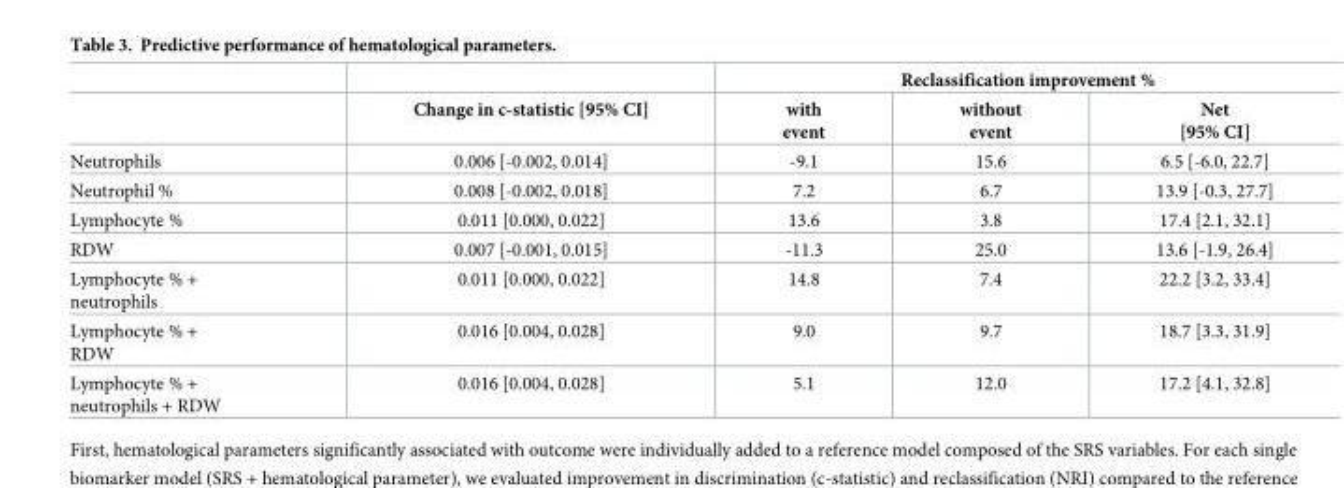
<table><thead><tr><td rowspan="2"></td><td rowspan="2">Change in c-statistic [95% CI]</td><td colspan="3">Reclassification improvement %</td></tr><tr><td>with event</td><td>without event</td><td>Net [95% CI]</td></tr></thead><tbody><tr><td>Neutrophils</td><td>0.006 [-0.002, 0.014]</td><td>-9.1</td><td>15.6</td><td>6.5 [-6.0, 22.7]</td></tr><tr><td>Neutrophil %</td><td>0.008 [-0.002, 0.018]</td><td>7.2</td><td>6.7</td><td>13.9 [-0.3, 27.7]</td></tr><tr><td>Lymphocyte %</td><td>0.011 [0.000, 0.022]</td><td>13.6</td><td>3.8</td><td>17.4 [2.1, 32.1]</td></tr><tr><td>RDW</td><td>0.007 [-0.001, 0.015]</td><td>-11.3</td><td>25.0</td><td>13.6 [-1.9, 26.4]</td></tr><tr><td>Lymphocyte % + neutrophils</td><td>0.011 [0.000, 0.022]</td><td>14.8</td><td>7.4</td><td>22.2 [3.2, 33.4]</td></tr><tr><td>Lymphocyte % + RDW</td><td>0.016 [0.004, 0.028]</td><td>9.0</td><td>9.7</td><td>18.7 [3.3, 31.9]</td></tr><tr><td>Lymphocyte % + neutrophils + RDW</td><td>0.016 [0.004, 0.028]</td><td>5.1</td><td>12.0</td><td>17.2 [4.1, 32.8]</td></tr></tbody></table>